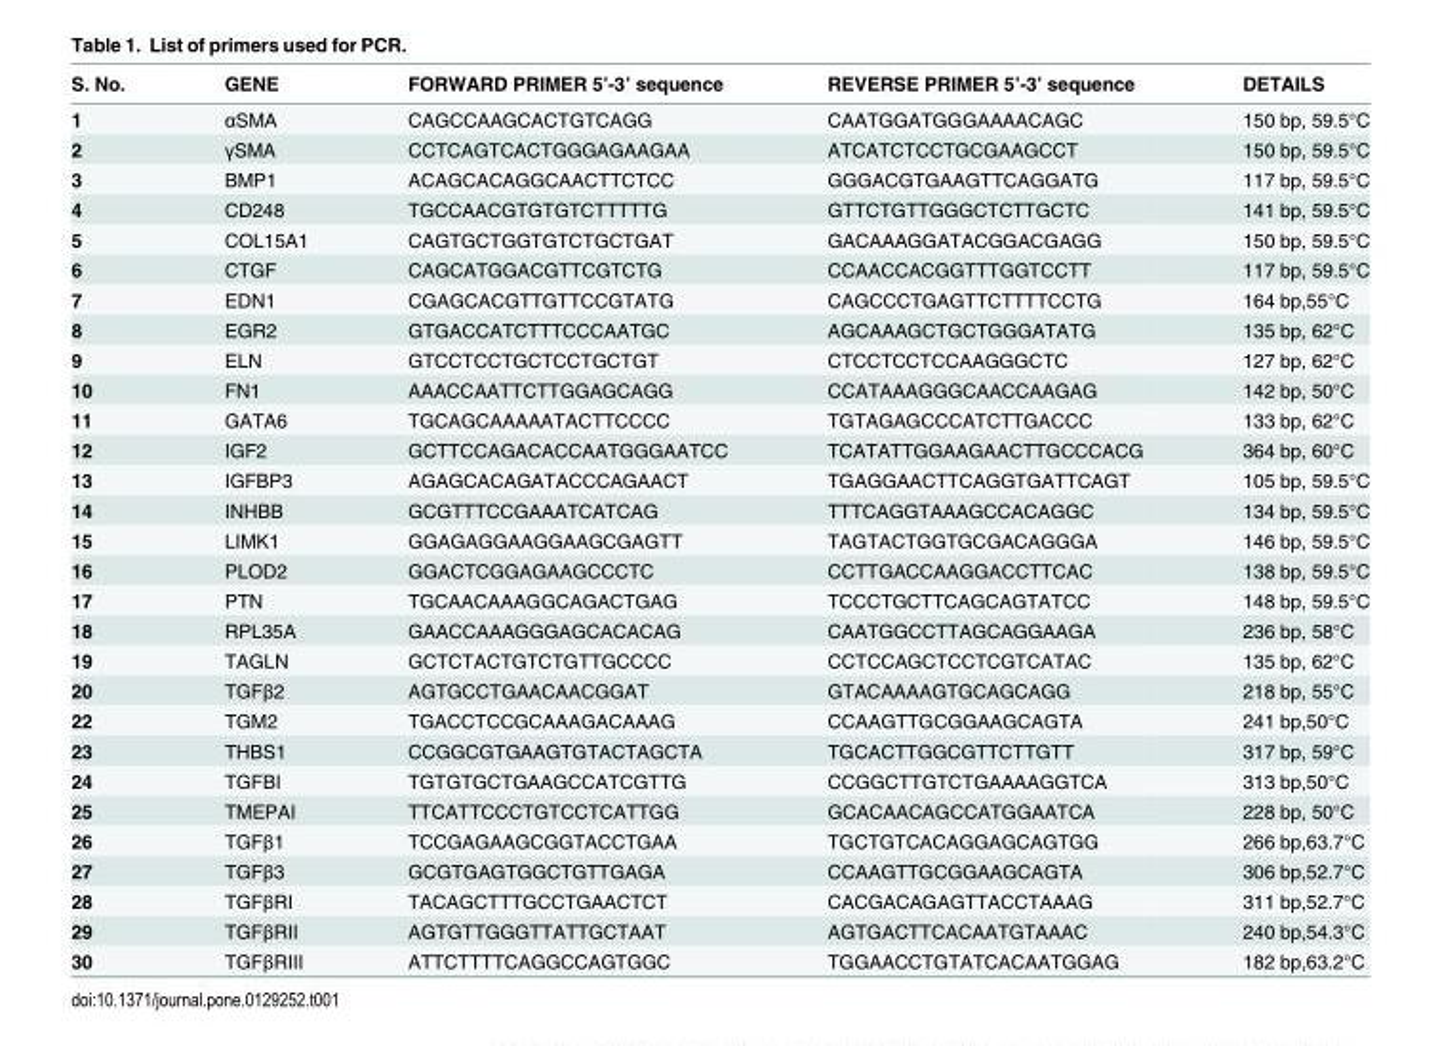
<table><thead><tr><td>S. No.</td><td>GENE</td><td>FORWARD PRIMER 5’-3’ sequence</td><td>REVERSE PRIMER 5’-3’ sequence</td><td>DETAILS</td></tr></thead><tbody><tr><td>1</td><td>αSMA</td><td>CAGCCAAGCACTGTCAGG</td><td>CAATGGATGGGAAAACAGC</td><td>150 bp, 59.5°C</td></tr><tr><td>2</td><td>γSMA</td><td>CCTCAGTCACTGGGAGAAGAA</td><td>ATCATCTCCTGCGAAGCCT</td><td>150 bp, 59.5°C</td></tr><tr><td>3</td><td>BMP1</td><td>ACAGCACAGGCAACTTCTCC</td><td>GGGACGTGAAGTTCAGGATG</td><td>117 bp, 59.5°C</td></tr><tr><td>4</td><td>CD248</td><td>TGCCAACGTGTGTCTTTTTG</td><td>GTTCTGTTGGGCTCTTGCTC</td><td>141 bp, 59.5°C</td></tr><tr><td>5</td><td>COL15A1</td><td>CAGTGCTGGTGTCTGCTGAT</td><td>GACAAAGGATACGGACGAGG</td><td>150 bp, 59.5°C</td></tr><tr><td>6</td><td>CTGF</td><td>CAGCATGGACGTTCGTCTG</td><td>CCAACCACGGTTTGGTCCTT</td><td>117 bp, 59.5°C</td></tr><tr><td>7</td><td>EDN1</td><td>CGAGCACGTTGTTCCGTATG</td><td>CAGCCCTGAGTTCTTTTCCTG</td><td>164 bp,55°C</td></tr><tr><td>8</td><td>EGR2</td><td>GTGACCATCTTTCCCAATGC</td><td>AGCAAAGCTGCTGGGATATG</td><td>135 bp, 62°C</td></tr><tr><td>9</td><td>ELN</td><td>GTCCTCCTGCTCCTGCTGT</td><td>CTCCTCCTCCAAGGGCTC</td><td>127 bp, 62°C</td></tr><tr><td>10</td><td>FN1</td><td>AAACCAATTCTTGGAGCAGG</td><td>CCATAAAGGGCAACCAAGAG</td><td>142 bp, 50°C</td></tr><tr><td>11</td><td>GATA6</td><td>TGCAGCAAAAATACTTCCCC</td><td>TGTAGAGCCCATCTTGACCC</td><td>133 bp, 62°C</td></tr><tr><td>12</td><td>IGF2</td><td>GCTTCCAGACACCAATGGGAATCC</td><td>TCATATTGGAAGAACTTGCCCACG</td><td>364 bp, 60°C</td></tr><tr><td>13</td><td>IGFBP3</td><td>AGAGCACAGATACCCAGAACT</td><td>TGAGGAACTTCAGGTGATTCAGT</td><td>105 bp, 59.5°C</td></tr><tr><td>14</td><td>INHBB</td><td>GCGTTTCCGAAATCATCAG</td><td>TTTCAGGTAAAGCCACAGGC</td><td>134 bp, 59.5°C</td></tr><tr><td>15</td><td>LIMK1</td><td>GGAGAGGAAGGAAGCGAGTT</td><td>TAGTACTGGTGCGACAGGGA</td><td>146 bp, 59.5°C</td></tr><tr><td>16</td><td>PLOD2</td><td>GGACTCGGAGAAGCCCTC</td><td>CCTTGACCAAGGACCTTCAC</td><td>138 bp, 59.5°C</td></tr><tr><td>17</td><td>PTN</td><td>TGCAACAAAGGCAGACTGAG</td><td>TCCCTGCTTCAGCAGTATCC</td><td>148 bp, 59.5°C</td></tr><tr><td>18</td><td>RPL35A</td><td>GAACCAAAGGGAGCACACAG</td><td>CAATGGCCTTAGCAGGAAGA</td><td>236 bp, 58°C</td></tr><tr><td>19</td><td>TAGLN</td><td>GCTCTACTGTCTGTTGCCCC</td><td>CCTCCAGCTCCTCGTCATAC</td><td>135 bp, 62°C</td></tr><tr><td>20</td><td>TGFβ2</td><td>AGTGCCTGAACAACGGAT</td><td>GTACAAAAGTGCAGCAGG</td><td>218 bp, 55°C</td></tr><tr><td>22</td><td>TGM2</td><td>TGACCTCCGCAAAGACAAAG</td><td>CCAAGTTGCGGAAGCAGTA</td><td>241 bp,50°C</td></tr><tr><td>23</td><td>THBS1</td><td>CCGGCGTGAAGTGTACTAGCTA</td><td>TGCACTTGGCGTTCTTGTT</td><td>317 bp, 59°C</td></tr><tr><td>24</td><td>TGFBI</td><td>TGTGTGCTGAAGCCATCGTTG</td><td>CCGGCTTGTCTGAAAAGGTCA</td><td>313 bp,50°C</td></tr><tr><td>25</td><td>TMEPAI</td><td>TTCATTCCCTGTCCTCATTGG</td><td>GCACAACAGCCATGGAATCA</td><td>228 bp, 50°C</td></tr><tr><td>26</td><td>TGFβ1</td><td>TCCGAGAAGCGGTACCTGAA</td><td>TGCTGTCACAGGAGCAGTGG</td><td>266 bp,63.7°C</td></tr><tr><td>27</td><td>TGFβ3</td><td>GCGTGAGTGGCTGTTGAGA</td><td>CCAAGTTGCGGAAGCAGTA</td><td>306 bp,52.7°C</td></tr><tr><td>28</td><td>TGFβRI</td><td>TACAGCTTTGCCTGAACTCT</td><td>CACGACAGAGTTACCTAAAG</td><td>311 bp,52.7°C</td></tr><tr><td>29</td><td>TGFβRII</td><td>AGTGTTGGGTTATTGCTAAT</td><td>AGTGACTTCACAATGTAAAC</td><td>240 bp,54.3°C</td></tr><tr><td>30</td><td>TGFβRIII</td><td>ATTCTTTTCAGGCCAGTGGC</td><td>TGGAACCTGTATCACAATGGAG</td><td>182 bp,63.2°C</td></tr></tbody></table>